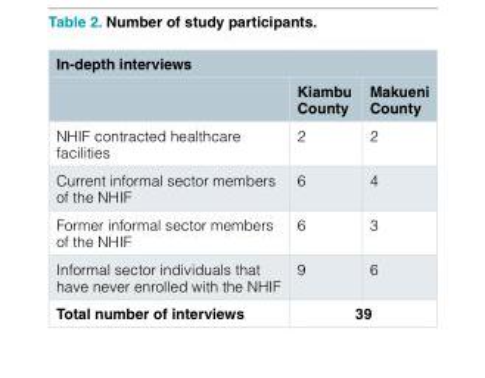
<table><thead><tr><td colspan="3">In-depth interviews</td></tr><tr><td></td><td>Kiambu County</td><td>Makueni County</td></tr></thead><tbody><tr><td>NHIF contracted healthcare facilities</td><td>2</td><td>2</td></tr><tr><td>Current informal sector members of the NHIF</td><td>6</td><td>4</td></tr><tr><td>Former informal sector members of the NHIF</td><td>6</td><td>3</td></tr><tr><td>Informal sector individuals that have never enrolled with the NHIF</td><td>9</td><td>6</td></tr><tr><td>Total number of interviews</td><td colspan="2">39</td></tr></tbody></table>